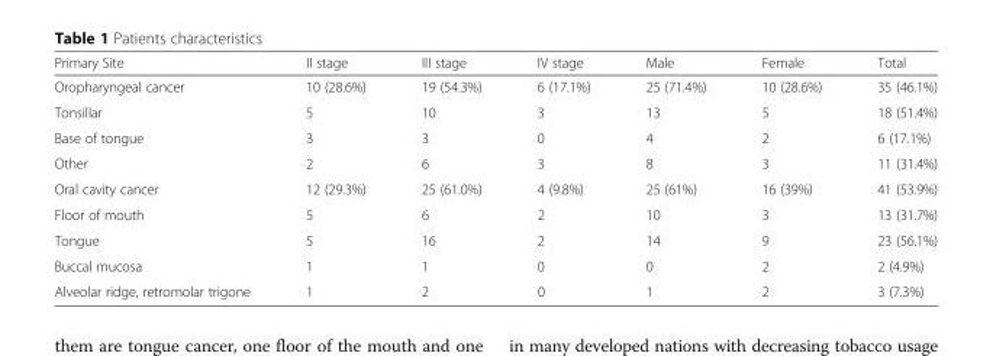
<table><thead><tr><td>Primary Site</td><td>II stage</td><td>III stage</td><td>IV stage</td><td>Male</td><td>Female</td><td>Total</td></tr></thead><tbody><tr><td>Oropharyngeal cancer</td><td>10 (28.6%)</td><td>19 (54.3%)</td><td>6 (17.1%)</td><td>25 (71.4%)</td><td>10 (28.6%)</td><td>35 (46.1%)</td></tr><tr><td>Tonsillar</td><td>5</td><td>10</td><td>3</td><td>13</td><td>5</td><td>18 (51.4%)</td></tr><tr><td>Base of tongue</td><td>3</td><td>3</td><td>0</td><td>4</td><td>2</td><td>6 (17.1%)</td></tr><tr><td>Other</td><td>2</td><td>6</td><td>3</td><td>8</td><td>3</td><td>11 (31.4%)</td></tr><tr><td>Oral cavity cancer</td><td>12 (29.3%)</td><td>25 (61.0%)</td><td>4 (9.8%)</td><td>25 (61%)</td><td>16 (39%)</td><td>41 (53.9%)</td></tr><tr><td>Floor of mouth</td><td>5</td><td>6</td><td>2</td><td>10</td><td>3</td><td>13 (31.7%)</td></tr><tr><td>Tongue</td><td>5</td><td>16</td><td>2</td><td>14</td><td>9</td><td>23 (56.1%)</td></tr><tr><td>Buccal mucosa</td><td>1</td><td>1</td><td>0</td><td>0</td><td>2</td><td>2 (4.9%)</td></tr><tr><td>Alveolar ridge, retromolar trigone</td><td>1</td><td>2</td><td>0</td><td>1</td><td>2</td><td>3 (7.3%)</td></tr></tbody></table>